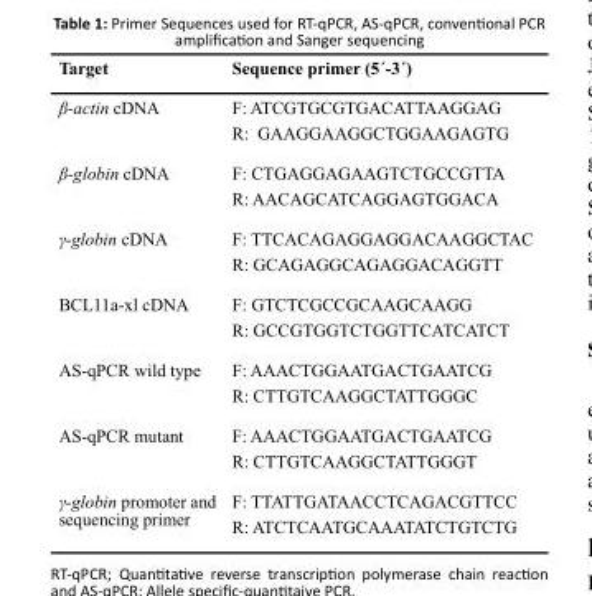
<table><thead><tr><td>Target</td><td>Sequence primer (5ˊ-3ˊ)</td></tr></thead><tbody><tr><td rowspan="2">β-actin cDNA</td><td>F: ATCGTGCGTGACATTAAGGAG</td></tr><tr><td>R: GAAGGAAGGCTGGAAGAGTG</td></tr><tr><td rowspan="2">β-globin cDNA</td><td>F: CTGAGGAGAAGTCTGCCGTTA</td></tr><tr><td>R: AACAGCATCAGGAGTGGACA</td></tr><tr><td rowspan="2">γ-globin cDNA</td><td>F: TTCACAGAGGAGGACAAGGCTAC</td></tr><tr><td>R: GCAGAGGCAGAGGACAGGTT</td></tr><tr><td rowspan="2">BCL11a-xl cDNA</td><td>F: GTCTCGCCGCAAGCAAGG</td></tr><tr><td>R: GCCGTGGTCTGGTTCATCATCT</td></tr><tr><td rowspan="2">AS-qPCR wild type</td><td>F: AAACTGGAATGACTGAATCG</td></tr><tr><td>R: CTTGTCAAGGCTATTGGGC</td></tr><tr><td rowspan="2">AS-qPCR mutant</td><td>F: AAACTGGAATGACTGAATCG</td></tr><tr><td>R: CTTGTCAAGGCTATTGGGT</td></tr><tr><td rowspan="2">γ-globin promoter and sequencing primer</td><td>F: TTATTGATAACCTCAGACGTTCC</td></tr><tr><td>R: ATCTCAATGCAAATATCTGTCTG</td></tr></tbody></table>